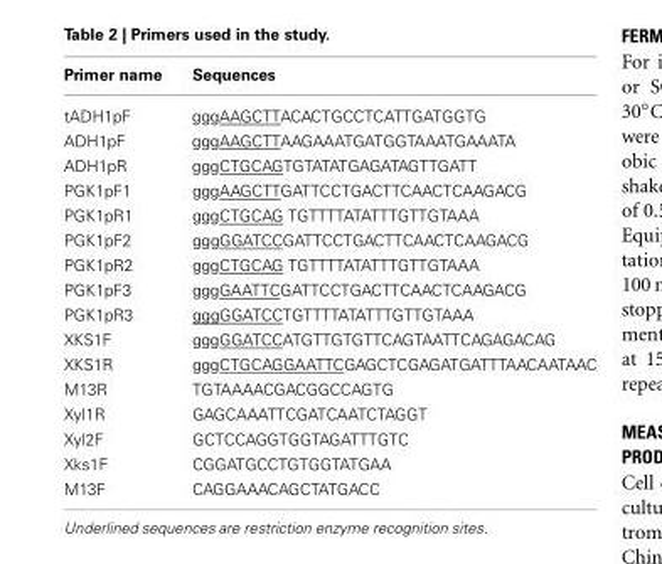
<table><thead><tr><td>Primer name</td><td>Sequences</td></tr></thead><tbody><tr><td>tADH1pF</td><td>gggAAGCTTACACTGCCTCATTGATGGTG</td></tr><tr><td>ADH1pF</td><td>gggAAGCTTAAGAAATGATGGTAAATGAAATA</td></tr><tr><td>ADH1pR</td><td>gggCTGCAGTGTATATGAGATAGTTGATT</td></tr><tr><td>PGK1pF1</td><td>gggAAGCTTGATTCCTGACTTCAACTCAAGACG</td></tr><tr><td>PGK1pR1</td><td>gggCTGCAG TGTTTTATATTTGTTGTAAA</td></tr><tr><td>PGK1pF2</td><td>gggGGATCCGATTCCTGACTTCAACTCAAGACG</td></tr><tr><td>PGK1pR2</td><td>gggCTGCAG TGTTTTATATTTGTTGTAAA</td></tr><tr><td>PGK1pF3</td><td>gggGAATTCGATTCCTGACTTCAACTCAAGACG</td></tr><tr><td>PGK1pR3</td><td>gggGGATCCTGTTTTATATTTGTTGTAAA</td></tr><tr><td>XKS1F</td><td>gggGGATCCATGTTGTGTTCAGTAATTCAGAGACAG</td></tr><tr><td>XKS1R</td><td>gggCTGCAGGAATTCGAGCTCGAGATGATTTAACAATAAC</td></tr><tr><td>M13R</td><td>TGTAAAACGACGGCCAGTG</td></tr><tr><td>Xyl1R</td><td>GAGCAAATTCGATCAATCTAGGT</td></tr><tr><td>Xyl2F</td><td>GCTCCAGGTGGTAGATTTGTC</td></tr><tr><td>Xks1F</td><td>CGGATGCCTGTGGTATGAA</td></tr><tr><td>M13F</td><td>CAGGAAACAGCTATGACC</td></tr></tbody></table>